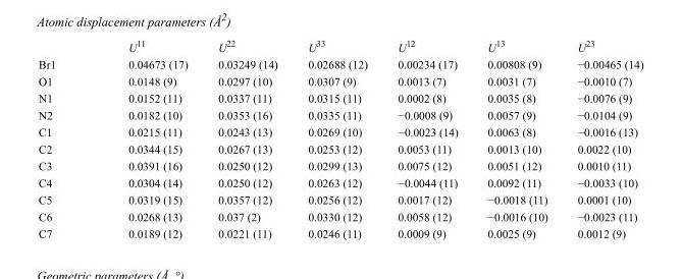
<table><thead><tr><td></td><td>U<sup>11</sup></td><td>U<sup>22</sup></td><td>U<sup>33</sup></td><td>U<sup>12</sup></td><td>U<sup>13</sup></td><td>U<sup>23</sup></td></tr></thead><tbody><tr><td>Br1</td><td>0.04673 (17)</td><td>0.03249 (14)</td><td>0.02688 (12)</td><td>0.00234 (17)</td><td>0.00808 (9)</td><td>−0.00465 (14)</td></tr><tr><td>O1</td><td>0.0148 (9)</td><td>0.0297 (10)</td><td>0.0307 (9)</td><td>0.0013 (7)</td><td>0.0031 (7)</td><td>−0.0010 (7)</td></tr><tr><td>N1</td><td>0.0152 (11)</td><td>0.0337 (11)</td><td>0.0315 (11)</td><td>0.0002 (8)</td><td>0.0035 (8)</td><td>−0.0076 (9)</td></tr><tr><td>N2</td><td>0.0182 (10)</td><td>0.0353 (16)</td><td>0.0335 (11)</td><td>−0.0008 (9)</td><td>0.0057 (9)</td><td>−0.0104 (9)</td></tr><tr><td>C1</td><td>0.0215 (11)</td><td>0.0243 (13)</td><td>0.0269 (10)</td><td>−0.0023 (14)</td><td>0.0063 (8)</td><td>−0.0016 (13)</td></tr><tr><td>C2</td><td>0.0344 (15)</td><td>0.0267 (13)</td><td>0.0253 (12)</td><td>0.0053 (11)</td><td>0.0013 (10)</td><td>0.0022 (10)</td></tr><tr><td>C3</td><td>0.0391 (16)</td><td>0.0250 (12)</td><td>0.0299 (13)</td><td>0.0075 (12)</td><td>0.0051 (12)</td><td>0.0010 (11)</td></tr><tr><td>C4</td><td>0.0304 (14)</td><td>0.0250 (12)</td><td>0.0263 (12)</td><td>−0.0044 (11)</td><td>0.0092 (11)</td><td>−0.0033 (10)</td></tr><tr><td>C5</td><td>0.0319 (15)</td><td>0.0357 (12)</td><td>0.0256 (12)</td><td>0.0017 (12)</td><td>−0.0018 (11)</td><td>0.0001 (10)</td></tr><tr><td>C6</td><td>0.0268 (13)</td><td>0.037 (2)</td><td>0.0330 (12)</td><td>0.0058 (12)</td><td>−0.0016 (10)</td><td>−0.0023 (11)</td></tr><tr><td>C7</td><td>0.0189 (12)</td><td>0.0221 (11)</td><td>0.0246 (11)</td><td>0.0009 (9)</td><td>0.0025 (9)</td><td>0.0012 (9)</td></tr></tbody></table>